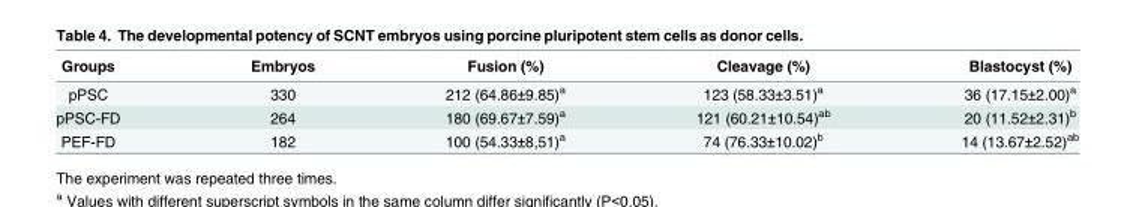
<table><thead><tr><td>Groups</td><td>Embryos</td><td>Fusion (%)</td><td>Cleavage (%)</td><td>Blastocyst (%)</td></tr></thead><tbody><tr><td>pPSC</td><td>330</td><td>212 (64.86±9.85)<sup>a</sup></td><td>123 (58.33±3.51)<sup>a</sup></td><td>36 (17.15±2.00)<sup>a</sup></td></tr><tr><td>pPSC-FD</td><td>264</td><td>180 (69.67±7.59)<sup>a</sup></td><td>121 (60.21±10.54)<sup>ab</sup></td><td>20 (11.52±2.31)<sup>b</sup></td></tr><tr><td>PEF-FD</td><td>182</td><td>100 (54.33±8,51)<sup>a</sup></td><td>74 (76.33±10.02)<sup>b</sup></td><td>14 (13.67±2.52)<sup>ab</sup></td></tr></tbody></table>